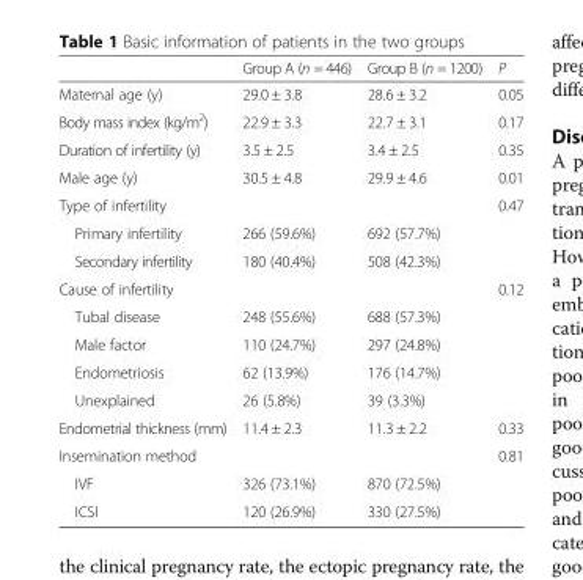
<table><thead><tr><td></td><td>Group A (n = 446)</td><td>Group B (n = 1200)</td><td>P</td></tr></thead><tbody><tr><td>Maternal age (y)</td><td>29.0 ± 3.8</td><td>28.6 ± 3.2</td><td>0.05</td></tr><tr><td>Body mass index (kg/m<sup>2</sup>)</td><td>22.9 ± 3.3</td><td>22.7 ± 3.1</td><td>0.17</td></tr><tr><td>Duration of infertility (y)</td><td>3.5 ± 2.5</td><td>3.4 ± 2.5</td><td>0.35</td></tr><tr><td>Male age (y)</td><td>30.5 ± 4.8</td><td>29.9 ± 4.6</td><td>0.01</td></tr><tr><td>Type of infertility</td><td></td><td></td><td>0.47</td></tr><tr><td>Primary infertility</td><td>266 (59.6%)</td><td>692 (57.7%)</td><td></td></tr><tr><td>Secondary infertility</td><td>180 (40.4%)</td><td>508 (42.3%)</td><td></td></tr><tr><td>Cause of infertility</td><td></td><td></td><td>0.12</td></tr><tr><td>Tubal disease</td><td>248 (55.6%)</td><td>688 (57.3%)</td><td></td></tr><tr><td>Male factor</td><td>110 (24.7%)</td><td>297 (24.8%)</td><td></td></tr><tr><td>Endometriosis</td><td>62 (13.9%)</td><td>176 (14.7%)</td><td></td></tr><tr><td>Unexplained</td><td>26 (5.8%)</td><td>39 (3.3%)</td><td></td></tr><tr><td>Endometrial thickness (mm)</td><td>11.4 ± 2.3</td><td>11.3 ± 2.2</td><td>0.33</td></tr><tr><td>Insemination method</td><td></td><td></td><td>0.81</td></tr><tr><td>IVF</td><td>326 (73.1%)</td><td>870 (72.5%)</td><td></td></tr><tr><td>ICSI</td><td>120 (26.9%)</td><td>330 (27.5%)</td><td></td></tr></tbody></table>